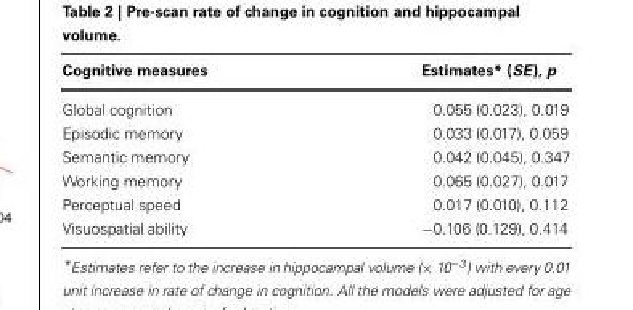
<table><thead><tr><td>Cognitive measures</td><td>Estimates* (SE), p</td></tr></thead><tbody><tr><td>Global cognition</td><td>0.055 (0.023), 0.019</td></tr><tr><td>Episodic memory</td><td>0.033 (0.017), 0.059</td></tr><tr><td>Semantic memory</td><td>0.042 (0.045), 0.347</td></tr><tr><td>Working memory</td><td>0.065 (0.027), 0.017</td></tr><tr><td>Perceptual speed</td><td>0.017 (0.010), 0.112</td></tr><tr><td>Visuospatial ability</td><td>−0.106 (0.129), 0.414</td></tr></tbody></table>